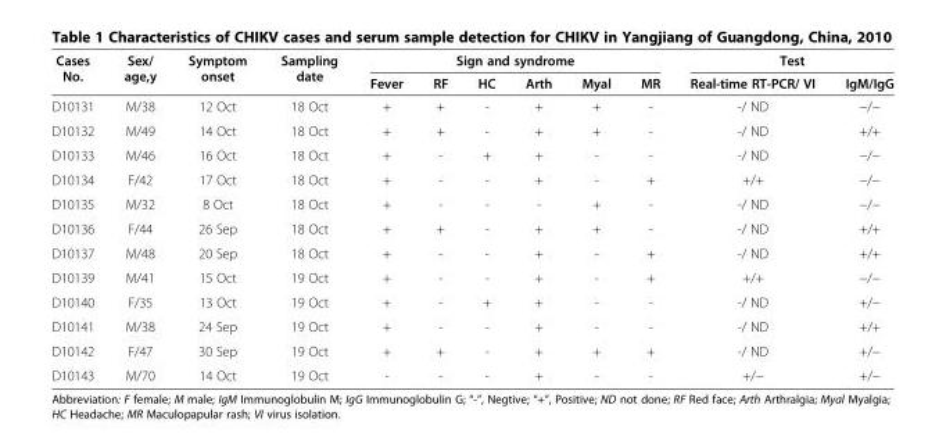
<table><thead><tr><td rowspan="2">Cases No.</td><td rowspan="2">Sex/ age,y</td><td rowspan="2">Symptom onset</td><td rowspan="2">Sampling date</td><td colspan="6">Sign and syndrome</td><td colspan="2">Test</td></tr><tr><td>Fever</td><td>RF</td><td>HC</td><td>Arth</td><td>Myal</td><td>MR</td><td>Real-time RT-PCR/ VI</td><td>IgM/IgG</td></tr></thead><tbody><tr><td>D10131</td><td>M/38</td><td>12 Oct</td><td>18 Oct</td><td>+</td><td>+</td><td>-</td><td>+</td><td>+</td><td>-</td><td>-/ ND</td><td>−/−</td></tr><tr><td>D10132</td><td>M/49</td><td>14 Oct</td><td>18 Oct</td><td>+</td><td>+</td><td>-</td><td>+</td><td>+</td><td>-</td><td>-/ ND</td><td>+/+</td></tr><tr><td>D10133</td><td>M/46</td><td>16 Oct</td><td>18 Oct</td><td>+</td><td>-</td><td>+</td><td>+</td><td>-</td><td>-</td><td>-/ ND</td><td>−/−</td></tr><tr><td>D10134</td><td>F/42</td><td>17 Oct</td><td>18 Oct</td><td>+</td><td>-</td><td>-</td><td>+</td><td>-</td><td>+</td><td>+/+</td><td>−/−</td></tr><tr><td>D10135</td><td>M/32</td><td>8 Oct</td><td>18 Oct</td><td>+</td><td>-</td><td>-</td><td>-</td><td>+</td><td>-</td><td>-/ ND</td><td>−/−</td></tr><tr><td>D10136</td><td>F/44</td><td>26 Sep</td><td>18 Oct</td><td>+</td><td>+</td><td>-</td><td>+</td><td>+</td><td>-</td><td>-/ ND</td><td>+/+</td></tr><tr><td>D10137</td><td>M/48</td><td>20 Sep</td><td>18 Oct</td><td>+</td><td>-</td><td>-</td><td>+</td><td>-</td><td>+</td><td>-/ ND</td><td>+/+</td></tr><tr><td>D10139</td><td>M/41</td><td>15 Oct</td><td>19 Oct</td><td>+</td><td>-</td><td>-</td><td>+</td><td>-</td><td>+</td><td>+/+</td><td>−/−</td></tr><tr><td>D10140</td><td>F/35</td><td>13 Oct</td><td>19 Oct</td><td>+</td><td>-</td><td>+</td><td>+</td><td>-</td><td>-</td><td>-/ ND</td><td>+/−</td></tr><tr><td>D10141</td><td>M/38</td><td>24 Sep</td><td>19 Oct</td><td>+</td><td>-</td><td>-</td><td>+</td><td>-</td><td>-</td><td>-/ ND</td><td>+/+</td></tr><tr><td>D10142</td><td>F/47</td><td>30 Sep</td><td>19 Oct</td><td>+</td><td>+</td><td>-</td><td>+</td><td>+</td><td>+</td><td>-/ ND</td><td>+/−</td></tr><tr><td>D10143</td><td>M/70</td><td>14 Oct</td><td>19 Oct</td><td>-</td><td>-</td><td>-</td><td>+</td><td>-</td><td>-</td><td>+/−</td><td>+/−</td></tr></tbody></table>